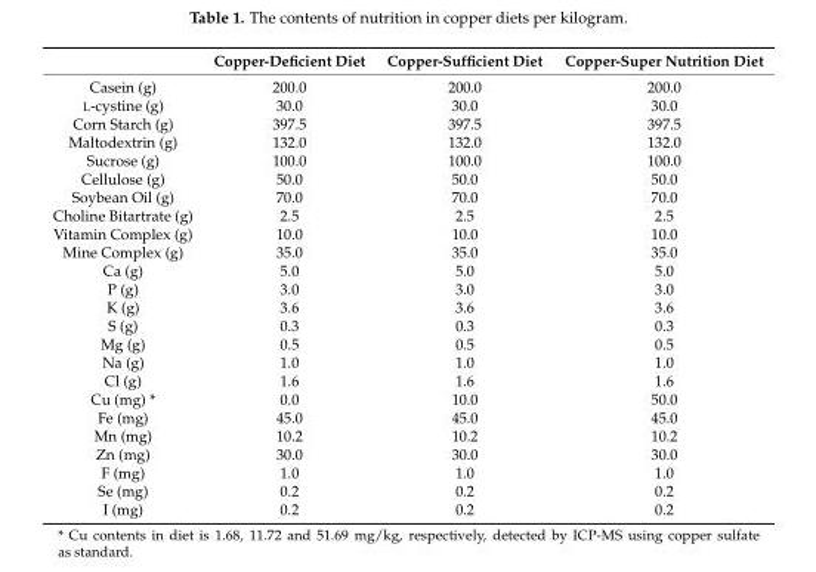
<table><thead><tr><td></td><td>Copper-Deficient Diet</td><td>Copper-Sufficient Diet</td><td>Copper-Super Nutrition Diet</td></tr></thead><tbody><tr><td>Casein (g)</td><td>200.0</td><td>200.0</td><td>200.0</td></tr><tr><td>L-cystine (g)</td><td>30.0</td><td>30.0</td><td>30.0</td></tr><tr><td>Corn Starch (g)</td><td>397.5</td><td>397.5</td><td>397.5</td></tr><tr><td>Maltodextrin (g)</td><td>132.0</td><td>132.0</td><td>132.0</td></tr><tr><td>Sucrose (g)</td><td>100.0</td><td>100.0</td><td>100.0</td></tr><tr><td>Cellulose (g)</td><td>50.0</td><td>50.0</td><td>50.0</td></tr><tr><td>Soybean Oil (g)</td><td>70.0</td><td>70.0</td><td>70.0</td></tr><tr><td>Choline Bitartrate (g)</td><td>2.5</td><td>2.5</td><td>2.5</td></tr><tr><td>Vitamin Complex (g)</td><td>10.0</td><td>10.0</td><td>10.0</td></tr><tr><td>Mine Complex (g)</td><td>35.0</td><td>35.0</td><td>35.0</td></tr><tr><td>Ca (g)</td><td>5.0</td><td>5.0</td><td>5.0</td></tr><tr><td>P (g)</td><td>3.0</td><td>3.0</td><td>3.0</td></tr><tr><td>K (g)</td><td>3.6</td><td>3.6</td><td>3.6</td></tr><tr><td>S (g)</td><td>0.3</td><td>0.3</td><td>0.3</td></tr><tr><td>Mg (g)</td><td>0.5</td><td>0.5</td><td>0.5</td></tr><tr><td>Na (g)</td><td>1.0</td><td>1.0</td><td>1.0</td></tr><tr><td>Cl (g)</td><td>1.6</td><td>1.6</td><td>1.6</td></tr><tr><td>Cu (mg) *</td><td>0.0</td><td>10.0</td><td>50.0</td></tr><tr><td>Fe (mg)</td><td>45.0</td><td>45.0</td><td>45.0</td></tr><tr><td>Mn (mg)</td><td>10.2</td><td>10.2</td><td>10.2</td></tr><tr><td>Zn (mg)</td><td>30.0</td><td>30.0</td><td>30.0</td></tr><tr><td>F (mg)</td><td>1.0</td><td>1.0</td><td>1.0</td></tr><tr><td>Se (mg)</td><td>0.2</td><td>0.2</td><td>0.2</td></tr><tr><td>I (mg)</td><td>0.2</td><td>0.2</td><td>0.2</td></tr></tbody></table>